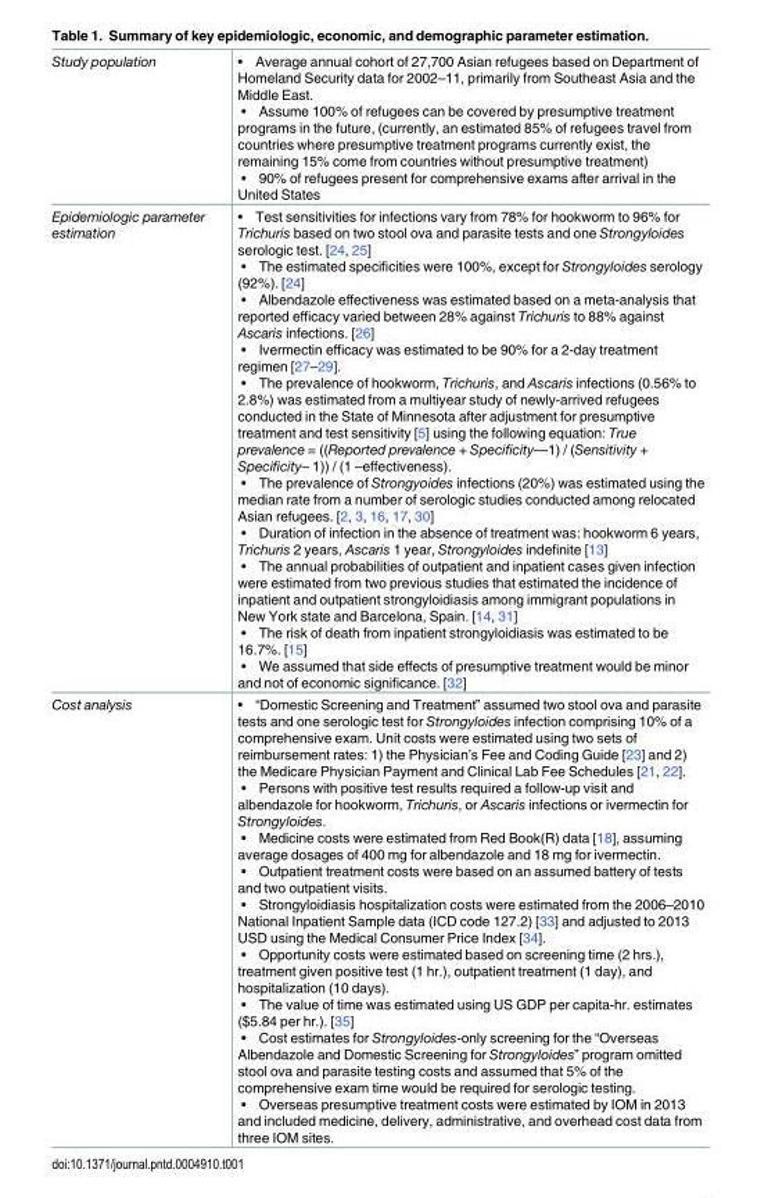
<table><tbody><tr><td>Study population</td><td>• Average annual cohort of 27,700 Asian refugees based on Department of Homeland Security data for 2002–11, primarily from Southeast Asia and the Middle East. • Assume 100% of refugees can be covered by presumptive treatment programs in the future, (currently, an estimated 85% of refugees travel from countries where presumptive treatment programs currently exist, the remaining 15% come from countries without presumptive treatment) • 90% of refugees present for comprehensive exams after arrival in the United States</td></tr><tr><td>Epidemiologic parameter estimation</td><td>• Test sensitivities for infections vary from 78% for hookworm to 96% for Trichuris based on two stool ova and parasite tests and one Strongyloides serologic test. [24, 25] • The estimated specificities were 100%, except for Strongyloides serology (92%). [24] • Albendazole effectiveness was estimated based on a meta-analysis that reported efficacy varied between 28% against Trichuris to 88% against Ascaris infections. [26] • Ivermectin efficacy was estimated to be 90% for a 2-day treatment regimen [27–29]. • The prevalence of hookworm, Trichuris, and Ascaris infections (0.56% to 2.8%) was estimated from a multiyear study of newly-arrived refugees conducted in the State of Minnesota after adjustment for presumptive treatment and test sensitivity [5] using the following equation: True prevalence = ((Reported prevalence + Specificity—1) / (Sensitivity + Specificity– 1)) / (1 –effectiveness). • The prevalence of Strongyoides infections (20%) was estimated using the median rate from a number of serologic studies conducted among relocated Asian refugees. [2, 3, 16, 17, 30] • Duration of infection in the absence of treatment was: hookworm 6 years, Trichuris 2 years, Ascaris 1 year, Strongyloides indefinite [13] • The annual probabilities of outpatient and inpatient cases given infection were estimated from two previous studies that estimated the incidence of inpatient and outpatient strongyloidiasis among immigrant populations in New York state and Barcelona, Spain. [14, 31] • The risk of death from inpatient strongyloidiasis was estimated to be 16.7%. [15] • We assumed that side effects of presumptive treatment would be minor and not of economic significance. [32]</td></tr><tr><td>Cost analysis</td><td>• “Domestic Screening and Treatment” assumed two stool ova and parasite tests and one serologic test for Strongyloides infection comprising 10% of a comprehensive exam. Unit costs were estimated using two sets of reimbursement rates: 1) the Physician’s Fee and Coding Guide [23] and 2) the Medicare Physician Payment and Clinical Lab Fee Schedules [21, 22]. • Persons with positive test results required a follow-up visit and albendazole for hookworm, Trichuris, or Ascaris infections or ivermectin for Strongyloides. • Medicine costs were estimated from Red Book(R) data [18], assuming average dosages of 400 mg for albendazole and 18 mg for ivermectin. • Outpatient treatment costs were based on an assumed battery of tests and two outpatient visits. • Strongyloidiasis hospitalization costs were estimated from the 2006–2010 National Inpatient Sample data (ICD code 127.2) [33] and adjusted to 2013 USD using the Medical Consumer Price Index [34]. • Opportunity costs were estimated based on screening time (2 hrs.), treatment given positive test (1 hr.), outpatient treatment (1 day), and hospitalization (10 days). • The value of time was estimated using US GDP per capita-hr. estimates ($5.84 per hr.). [35] • Cost estimates for Strongyloides-only screening for the “Overseas Albendazole and Domestic Screening for Strongyloides” program omitted stool ova and parasite testing costs and assumed that 5% of the comprehensive exam time would be required for serologic testing. • Overseas presumptive treatment costs were estimated by IOM in 2013 and included medicine, delivery, administrative, and overhead cost data from three IOM sites.</td></tr></tbody></table>